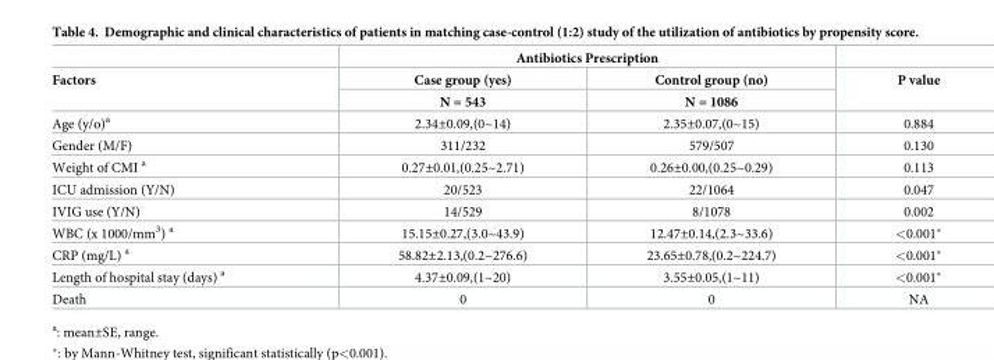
<table><thead><tr><td rowspan="3">Factors</td><td colspan="2">Antibiotics Prescription</td><td rowspan="3">P value</td></tr><tr><td rowspan="2">Case group (yes) N = 543</td><td rowspan="2">Control group (no) N = 1086</td></tr><tr></tr></thead><tbody><tr><td>Age (y/o)<sup>a</sup></td><td>2.34±0.09,(0~14)</td><td>2.35±0.07,(0~15)</td><td>0.884</td></tr><tr><td>Gender (M/F)</td><td>311/232</td><td>579/507</td><td>0.130</td></tr><tr><td>Weight of CMI <sup>a</sup></td><td>0.27±0.01,(0.25~2.71)</td><td>0.26±0.00,(0.25~0.29)</td><td>0.113</td></tr><tr><td>ICU admission (Y/N)</td><td>20/523</td><td>22/1064</td><td>0.047</td></tr><tr><td>IVIG use (Y/N)</td><td>14/529</td><td>8/1078</td><td>0.002</td></tr><tr><td>WBC (x 1000/mm<sup>3</sup>) <sup>a</sup></td><td>15.15±0.27,(3.0~43.9)</td><td>12.47±0.14,(2.3~33.6)</td><td>&lt;0.001*</td></tr><tr><td>CRP (mg/L) <sup>a</sup></td><td>58.82±2.13,(0.2~276.6)</td><td>23.65±0.78,(0.2~224.7)</td><td>&lt;0.001*</td></tr><tr><td>Length of hospital stay (days) <sup>a</sup></td><td>4.37±0.09,(1~20)</td><td>3.55±0.05,(1~11)</td><td>&lt;0.001*</td></tr><tr><td>Death</td><td>0</td><td>0</td><td>NA</td></tr></tbody></table>